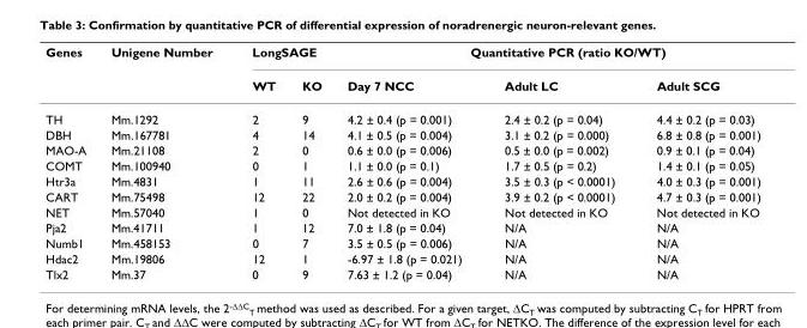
<table><thead><tr><td rowspan="2">Genes</td><td rowspan="2">Unigene Number</td><td colspan="2">LongSAGE</td><td colspan="3">Quantitative PCR (ratio KO/WT)</td></tr><tr><td>WT</td><td>KO</td><td>Day 7 NCC</td><td>Adult LC</td><td>Adult SCG</td></tr></thead><tbody><tr><td>TH</td><td>Mm.1292</td><td>2</td><td>9</td><td>4.2 ± 0.4 (p = 0.001)</td><td>2.4 ± 0.2 (p = 0.04)</td><td>4.4 ± 0.2 (p = 0.03)</td></tr><tr><td>DBH</td><td>Mm.167781</td><td>4</td><td>14</td><td>4.1 ± 0.5 (p = 0.004)</td><td>3.1 ± 0.2 (p = 0.000)</td><td>6.8 ± 0.8 (p = 0.001)</td></tr><tr><td>MAO-A</td><td>Mm.21108</td><td>2</td><td>0</td><td>0.6 ± 0.0 (p = 0.006)</td><td>0.5 ± 0.0 (p = 0.002)</td><td>0.9 ± 0.1 (p = 0.04)</td></tr><tr><td>COMT</td><td>Mm.100940</td><td>0</td><td>1</td><td>1.1 ± 0.0 (p = 0.1)</td><td>1.7 ± 0.5 (p = 0.2)</td><td>1.4 ± 0.1 (p = 0.05)</td></tr><tr><td>Htr3a</td><td>Mm.4831</td><td>1</td><td>11</td><td>2.6 ± 0.6 (p = 0.004)</td><td>3.5 ± 0.3 (p &lt; 0.0001)</td><td>4.0 ± 0.3 (p = 0.001)</td></tr><tr><td>CART</td><td>Mm.75498</td><td>12</td><td>22</td><td>2.0 ± 0.2 (p = 0.004)</td><td>3.9 ± 0.2 (p &lt; 0.0001)</td><td>4.7 ± 0.3 (p = 0.001)</td></tr><tr><td>NET</td><td>Mm.57040</td><td>1</td><td>0</td><td>Not detected in KO</td><td>Not detected in KO</td><td>Not detected in KO</td></tr><tr><td>Pja2</td><td>Mm.41711</td><td>1</td><td>12</td><td>7.0 ± 1.8 (p = 0.04)</td><td>N/A</td><td>N/A</td></tr><tr><td>Numb1</td><td>Mm.458153</td><td>0</td><td>7</td><td>3.5 ± 0.5 (p = 0.006)</td><td>N/A</td><td>N/A</td></tr><tr><td>Hdac2</td><td>Mm.19806</td><td>12</td><td>1</td><td>-6.97 ± 1.8 (p = 0.021)</td><td>N/A</td><td>N/A</td></tr><tr><td>Tlx2</td><td>Mm.37</td><td>0</td><td>9</td><td>7.63 ± 1.2 (p = 0.04)</td><td>N/A</td><td>N/A</td></tr></tbody></table>